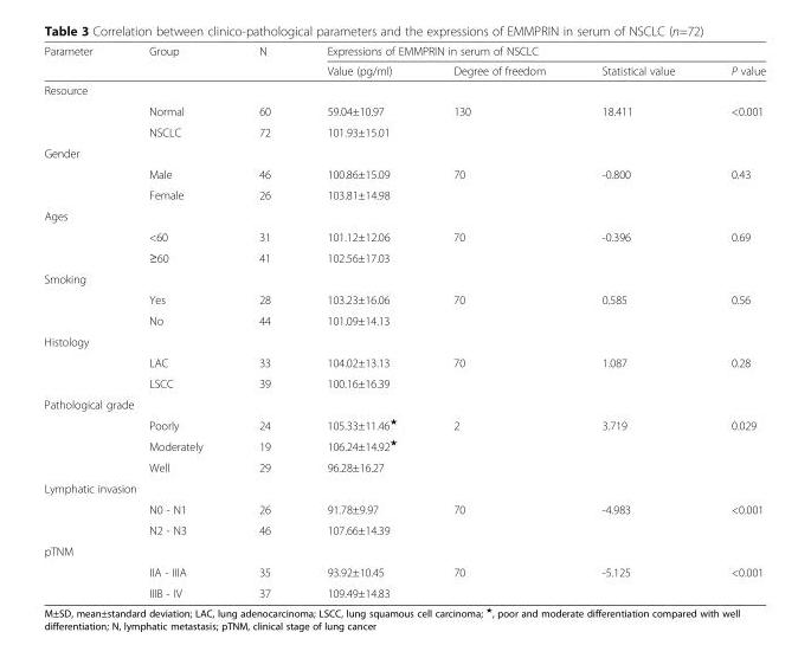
<table><thead><tr><td rowspan="2">Parameter</td><td rowspan="2">Group</td><td rowspan="2">N</td><td colspan="4">Expressions of EMMPRIN in serum of NSCLC</td></tr><tr><td>Value (pg/ml)</td><td>Degree of freedom</td><td>Statistical value</td><td>P value</td></tr></thead><tbody><tr><td colspan="7">Resource</td></tr><tr><td></td><td>Normal</td><td>60</td><td>59.04±10.97</td><td rowspan="2">130</td><td rowspan="2">18.411</td><td rowspan="2">&lt;0.001</td></tr><tr><td></td><td>NSCLC</td><td>72</td><td>101.93±15.01</td></tr><tr><td colspan="7">Gender</td></tr><tr><td></td><td>Male</td><td>46</td><td>100.86±15.09</td><td rowspan="2">70</td><td rowspan="2">-0.800</td><td rowspan="2">0.43</td></tr><tr><td></td><td>Female</td><td>26</td><td>103.81±14.98</td></tr><tr><td colspan="7">Ages</td></tr><tr><td></td><td>&lt;60</td><td>31</td><td>101.12±12.06</td><td rowspan="2">70</td><td rowspan="2">-0.396</td><td rowspan="2">0.69</td></tr><tr><td></td><td>≥60</td><td>41</td><td>102.56±17.03</td></tr><tr><td colspan="7">Smoking</td></tr><tr><td></td><td>Yes</td><td>28</td><td>103.23±16.06</td><td rowspan="2">70</td><td rowspan="2">0.585</td><td rowspan="2">0.56</td></tr><tr><td></td><td>No</td><td>44</td><td>101.09±14.13</td></tr><tr><td colspan="7">Histology</td></tr><tr><td></td><td>LAC</td><td>33</td><td>104.02±13.13</td><td rowspan="2">70</td><td rowspan="2">1.087</td><td rowspan="2">0.28</td></tr><tr><td></td><td>LSCC</td><td>39</td><td>100.16±16.39</td></tr><tr><td colspan="7">Pathological grade</td></tr><tr><td></td><td>Poorly</td><td>24</td><td>105.33±11.46<sup>★</sup></td><td rowspan="3">2</td><td rowspan="3">3.719</td><td rowspan="3">0.029</td></tr><tr><td></td><td>Moderately</td><td>19</td><td>106.24±14.92<sup>★</sup></td></tr><tr><td></td><td>Well</td><td>29</td><td>96.28±16.27</td></tr><tr><td colspan="7">Lymphatic invasion</td></tr><tr><td></td><td>N0 - N1</td><td>26</td><td>91.78±9.97</td><td rowspan="2">70</td><td rowspan="2">-4.983</td><td rowspan="2">&lt;0.001</td></tr><tr><td></td><td>N2 - N3</td><td>46</td><td>107.66±14.39</td></tr><tr><td colspan="7">pTNM</td></tr><tr><td></td><td>IIA - IIIA</td><td>35</td><td>93.92±10.45</td><td rowspan="2">70</td><td rowspan="2">-5.125</td><td rowspan="2">&lt;0.001</td></tr><tr><td></td><td>IIIB - IV</td><td>37</td><td>109.49±14.83</td></tr></tbody></table>